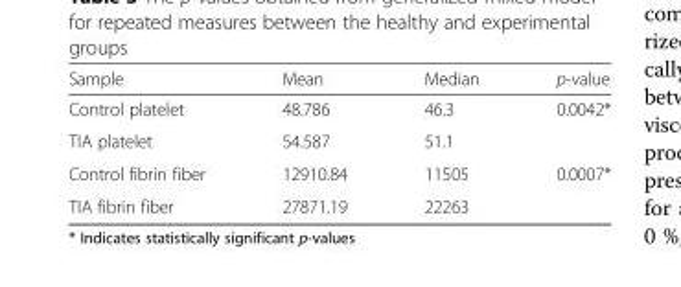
<table><thead><tr><td>Sample</td><td>Mean</td><td>Median</td><td>p-value</td></tr></thead><tbody><tr><td>Control platelet</td><td>48.786</td><td>46.3</td><td rowspan="2">0.0042*</td></tr><tr><td>TIA platelet</td><td>54.587</td><td>51.1</td></tr><tr><td>Control fibrin fiber</td><td>12910.84</td><td>11505</td><td rowspan="2">0.0007*</td></tr><tr><td>TIA fibrin fiber</td><td>27871.19</td><td>22263</td></tr></tbody></table>